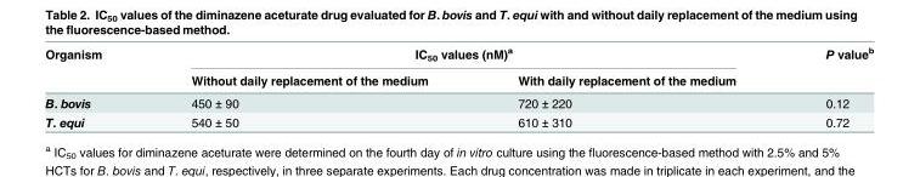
<table><thead><tr><td rowspan="2">Organism</td><td colspan="2">IC<sub>50</sub> values (nM)<sup>a</sup></td><td rowspan="2">P value<sup>b</sup></td></tr><tr><td>Without daily replacement of the medium</td><td>With daily replacement of the medium</td></tr></thead><tbody><tr><td>B. bovis</td><td>450 ± 90</td><td>720 ± 220</td><td>0.12</td></tr><tr><td>T. equi</td><td>540 ± 50</td><td>610 ± 310</td><td>0.72</td></tr></tbody></table>